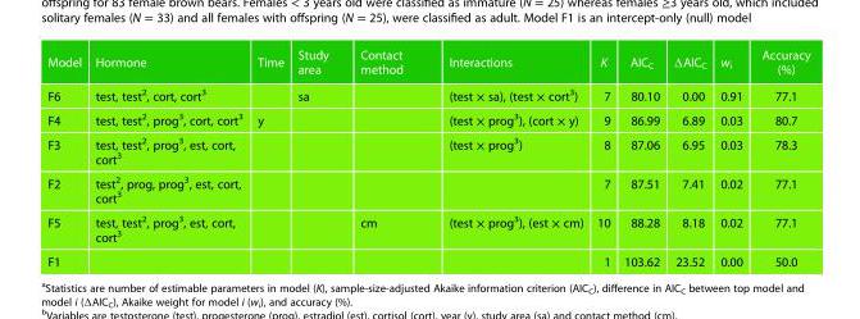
<table><thead><tr><td>Model</td><td>Hormone</td><td>Time</td><td>Study area</td><td>Contact method</td><td>Interactions</td><td>K</td><td>AIC<sub>C</sub></td><td>ΔAICC</td><td>w<sub>i</sub></td><td>Accuracy (%)</td></tr></thead><tbody><tr><td>F6</td><td>test, test<sup>2</sup>, cort, cort<sup>3</sup></td><td></td><td>sa</td><td></td><td>(test × sa), (test × cort<sup>3</sup>)</td><td>7</td><td>80.10</td><td>0.00</td><td>0.91</td><td>77.1</td></tr><tr><td>F4</td><td>test, test<sup>2</sup>, prog<sup>3</sup>, cort, cort<sup>3</sup></td><td>y</td><td></td><td></td><td>(test × prog<sup>3</sup>), (cort × y)</td><td>9</td><td>86.99</td><td>6.89</td><td>0.03</td><td>80.7</td></tr><tr><td>F3</td><td>test, test<sup>2</sup>, prog<sup>3</sup>, est, cort, cort<sup>3</sup></td><td></td><td></td><td></td><td>(test × prog<sup>3</sup>)</td><td>8</td><td>87.06</td><td>6.95</td><td>0.03</td><td>78.3</td></tr><tr><td>F2</td><td>test<sup>2</sup>, prog, prog<sup>3</sup>, est, cort, cort<sup>3</sup></td><td></td><td></td><td></td><td></td><td>7</td><td>87.51</td><td>7.41</td><td>0.02</td><td>77.1</td></tr><tr><td>F5</td><td>test, test<sup>2</sup>, prog<sup>3</sup>, est, cort, cort<sup>3</sup></td><td></td><td></td><td>cm</td><td>(test × prog<sup>3</sup>), (est × cm)</td><td>10</td><td>88.28</td><td>8.18</td><td>0.02</td><td>77.1</td></tr><tr><td>F1</td><td></td><td></td><td></td><td></td><td></td><td>1</td><td>103.62</td><td>23.52</td><td>0.00</td><td>50.0</td></tr></tbody></table>